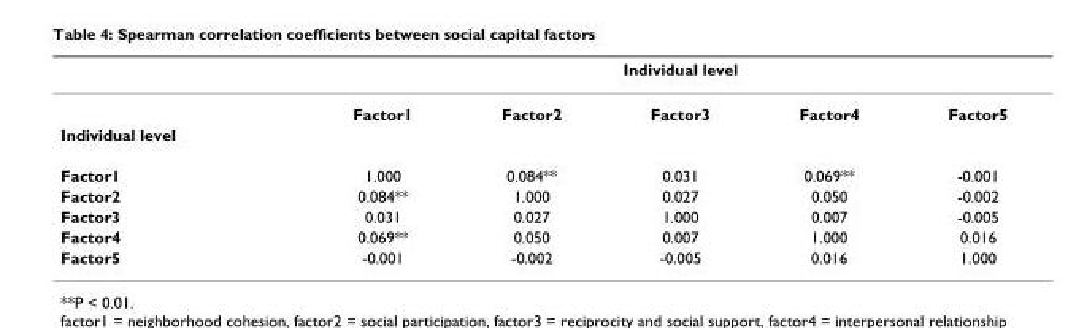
<table><thead><tr><td rowspan="2"></td><td colspan="5">Individual level</td></tr><tr><td>Factor1</td><td>Factor2</td><td>Factor3</td><td>Factor4</td><td>Factor5</td></tr></thead><tbody><tr><td colspan="6">Individual level</td></tr><tr><td>Factor1</td><td>1.000</td><td>0.084**</td><td>0.031</td><td>0.069**</td><td>-0.001</td></tr><tr><td>Factor2</td><td>0.084**</td><td>1.000</td><td>0.027</td><td>0.050</td><td>-0.002</td></tr><tr><td>Factor3</td><td>0.031</td><td>0.027</td><td>1.000</td><td>0.007</td><td>-0.005</td></tr><tr><td>Factor4</td><td>0.069**</td><td>0.050</td><td>0.007</td><td>1.000</td><td>0.016</td></tr><tr><td>Factor5</td><td>-0.001</td><td>-0.002</td><td>-0.005</td><td>0.016</td><td>1.000</td></tr></tbody></table>